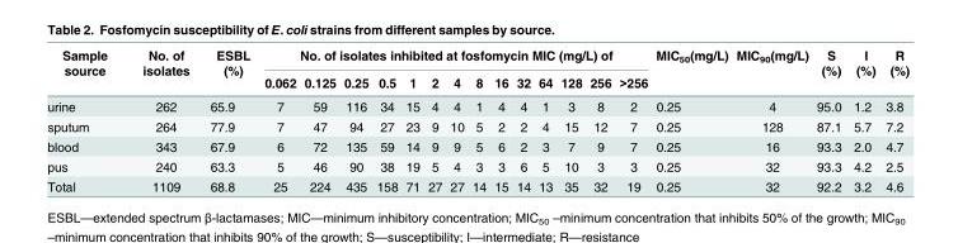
<table><thead><tr><td rowspan="2">Sample source</td><td rowspan="2">No. of isolates</td><td rowspan="2">ESBL (%)</td><td colspan="14">No. of isolates inhibited at fosfomycin MIC (mg/L) of</td><td rowspan="2">MIC<sub>50</sub>(mg/L)</td><td rowspan="2">MIC<sub>90</sub>(mg/L)</td><td rowspan="2">S (%)</td><td rowspan="2">I (%)</td><td rowspan="2">R (%)</td></tr><tr><td>0.062</td><td>0.125</td><td>0.25</td><td>0.5</td><td>1</td><td>2</td><td>4</td><td>8</td><td>16</td><td>32</td><td>64</td><td>128</td><td>256</td><td>&gt;256</td></tr></thead><tbody><tr><td>urine</td><td>262</td><td>65.9</td><td>7</td><td>59</td><td>116</td><td>34</td><td>15</td><td>4</td><td>4</td><td>1</td><td>4</td><td>4</td><td>1</td><td>3</td><td>8</td><td>2</td><td>0.25</td><td>4</td><td>95.0</td><td>1.2</td><td>3.8</td></tr><tr><td>sputum</td><td>264</td><td>77.9</td><td>7</td><td>47</td><td>94</td><td>27</td><td>23</td><td>9</td><td>10</td><td>5</td><td>2</td><td>2</td><td>4</td><td>15</td><td>12</td><td>7</td><td>0.25</td><td>128</td><td>87.1</td><td>5.7</td><td>7.2</td></tr><tr><td>blood</td><td>343</td><td>67.9</td><td>6</td><td>72</td><td>135</td><td>59</td><td>14</td><td>9</td><td>9</td><td>5</td><td>6</td><td>2</td><td>3</td><td>7</td><td>9</td><td>7</td><td>0.25</td><td>16</td><td>93.3</td><td>2.0</td><td>4.7</td></tr><tr><td>pus</td><td>240</td><td>63.3</td><td>5</td><td>46</td><td>90</td><td>38</td><td>19</td><td>5</td><td>4</td><td>3</td><td>3</td><td>6</td><td>5</td><td>10</td><td>3</td><td>3</td><td>0.25</td><td>32</td><td>93.3</td><td>4.2</td><td>2.5</td></tr><tr><td>Total</td><td>1109</td><td>68.8</td><td>25</td><td>224</td><td>435</td><td>158</td><td>71</td><td>27</td><td>27</td><td>14</td><td>15</td><td>14</td><td>13</td><td>35</td><td>32</td><td>19</td><td>0.25</td><td>32</td><td>92.2</td><td>3.2</td><td>4.6</td></tr></tbody></table>